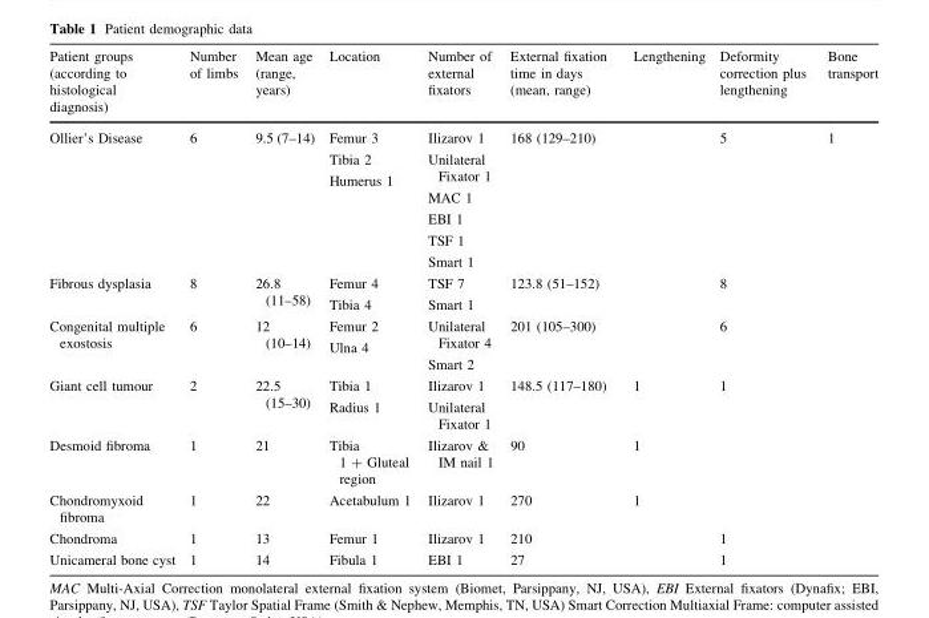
<table><thead><tr><td>Patient groups (according to histological diagnosis)</td><td>Number of limbs</td><td>Mean age (range, years)</td><td>Location</td><td>Number of external fixators</td><td>External fixation time in days (mean, range)</td><td>Lengthening</td><td>Deformity correction plus lengthening</td><td>Bone transport</td></tr></thead><tbody><tr><td>Ollier’s Disease</td><td>6</td><td>9.5 (7–14)</td><td>Femur 3 Tibia 2 Humerus 1</td><td>Ilizarov 1 Unilateral Fixator 1 MAC 1 EBI 1 TSF 1 Smart 1</td><td>168 (129–210)</td><td></td><td>5</td><td>1</td></tr><tr><td>Fibrous dysplasia</td><td>8</td><td>26.8 (11–58)</td><td>Femur 4 Tibia 4</td><td>TSF 7 Smart 1</td><td>123.8 (51–152)</td><td></td><td>8</td><td></td></tr><tr><td>Congenital multiple exostosis</td><td>6</td><td>12 (10–14)</td><td>Femur 2 Ulna 4</td><td>Unilateral Fixator 4 Smart 2</td><td>201 (105–300)</td><td></td><td>6</td><td></td></tr><tr><td>Giant cell tumour</td><td>2</td><td>22.5 (15–30)</td><td>Tibia 1 Radius 1</td><td>Ilizarov 1 Unilateral Fixator 1</td><td>148.5 (117–180)</td><td>1</td><td>1</td><td></td></tr><tr><td>Desmoid fibroma</td><td>1</td><td>21</td><td>Tibia 1 + Gluteal region</td><td>Ilizarov &amp; IM nail 1</td><td>90</td><td>1</td><td></td><td></td></tr><tr><td>Chondromyxoid fibroma</td><td>1</td><td>22</td><td>Acetabulum 1</td><td>Ilizarov 1</td><td>270</td><td>1</td><td></td><td></td></tr><tr><td>Chondroma</td><td>1</td><td>13</td><td>Femur 1</td><td>Ilizarov 1</td><td>210</td><td></td><td>1</td><td></td></tr><tr><td>Unicameral bone cyst</td><td>1</td><td>14</td><td>Fibula 1</td><td>EBI 1</td><td>27</td><td></td><td>1</td><td></td></tr></tbody></table>